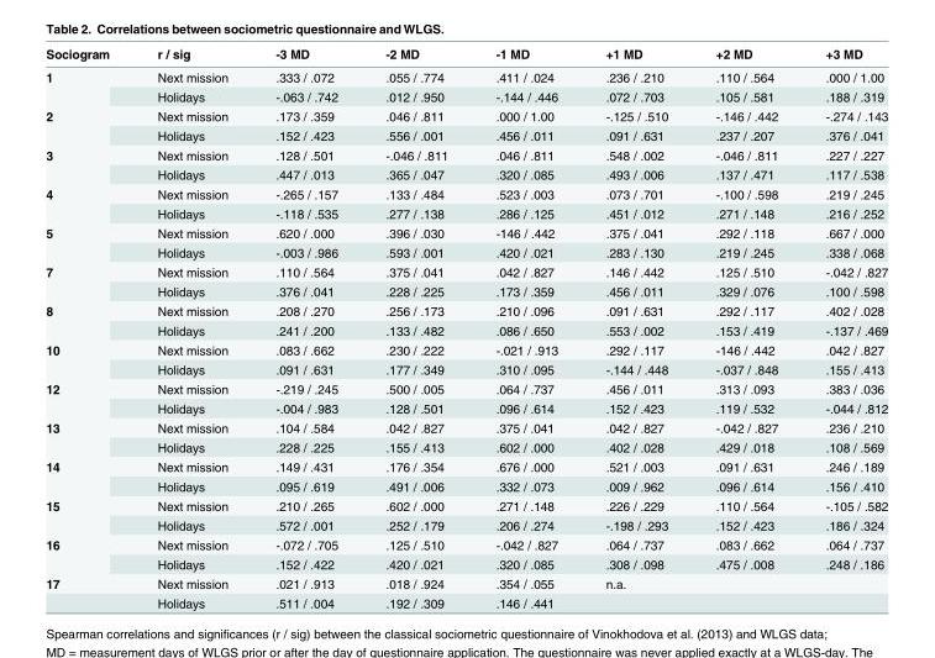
<table><thead><tr><td>Sociogram</td><td>r / sig</td><td>-3 MD</td><td>-2 MD</td><td>-1 MD</td><td>+1 MD</td><td>+2 MD</td><td>+3 MD</td></tr></thead><tbody><tr><td rowspan="2">1</td><td>Next mission</td><td>.333 / .072</td><td>.055 / .774</td><td>.411 / .024</td><td>.236 / .210</td><td>.110 / .564</td><td>.000 / 1.00</td></tr><tr><td>Holidays</td><td>-.063 / .742</td><td>.012 / .950</td><td>-.144 / .446</td><td>.072 / .703</td><td>.105 / .581</td><td>.188 / .319</td></tr><tr><td rowspan="2">2</td><td>Next mission</td><td>.173 / .359</td><td>.046 / .811</td><td>.000 / 1.00</td><td>-.125 / .510</td><td>-.146 / .442</td><td>-.274 / .143</td></tr><tr><td>Holidays</td><td>.152 / .423</td><td>.556 / .001</td><td>.456 / .011</td><td>.091 / .631</td><td>.237 / .207</td><td>.376 / .041</td></tr><tr><td rowspan="2">3</td><td>Next mission</td><td>.128 / .501</td><td>-.046 / .811</td><td>.046 / .811</td><td>.548 / .002</td><td>-.046 / .811</td><td>.227 / .227</td></tr><tr><td>Holidays</td><td>.447 / .013</td><td>.365 / .047</td><td>.320 / .085</td><td>.493 / .006</td><td>.137 / .471</td><td>.117 / .538</td></tr><tr><td rowspan="2">4</td><td>Next mission</td><td>-.265 / .157</td><td>.133 / .484</td><td>.523 / .003</td><td>.073 / .701</td><td>-.100 / .598</td><td>.219 / .245</td></tr><tr><td>Holidays</td><td>-.118 / .535</td><td>.277 / .138</td><td>.286 / .125</td><td>.451 / .012</td><td>.271 / .148</td><td>.216 / .252</td></tr><tr><td rowspan="2">5</td><td>Next mission</td><td>.620 / .000</td><td>.396 / .030</td><td>-146 / .442</td><td>.375 / .041</td><td>.292 / .118</td><td>.667 / .000</td></tr><tr><td>Holidays</td><td>-.003 / .986</td><td>.593 / .001</td><td>.420 / .021</td><td>.283 / .130</td><td>.219 / .245</td><td>.338 / .068</td></tr><tr><td rowspan="2">7</td><td>Next mission</td><td>.110 / .564</td><td>.375 / .041</td><td>.042 / .827</td><td>.146 / .442</td><td>.125 / .510</td><td>-.042 / .827</td></tr><tr><td>Holidays</td><td>.376 / .041</td><td>.228 / .225</td><td>.173 / .359</td><td>.456 / .011</td><td>.329 / .076</td><td>.100 / .598</td></tr><tr><td rowspan="2">8</td><td>Next mission</td><td>.208 / .270</td><td>.256 / .173</td><td>.210 / .096</td><td>.091 / .631</td><td>.292 / .117</td><td>.402 / .028</td></tr><tr><td>Holidays</td><td>.241 / .200</td><td>.133 / .482</td><td>.086 / .650</td><td>.553 / .002</td><td>.153 / .419</td><td>-.137 / .469</td></tr><tr><td rowspan="2">10</td><td>Next mission</td><td>.083 / .662</td><td>.230 / .222</td><td>-.021 / .913</td><td>.292 / .117</td><td>-146 / .442</td><td>.042 / .827</td></tr><tr><td>Holidays</td><td>.091 / .631</td><td>.177 / .349</td><td>.310 / .095</td><td>-.144 / .448</td><td>-.037 / .848</td><td>.155 / .413</td></tr><tr><td rowspan="2">12</td><td>Next mission</td><td>-.219 / .245</td><td>.500 / .005</td><td>.064 / .737</td><td>.456 / .011</td><td>.313 / .093</td><td>.383 / .036</td></tr><tr><td>Holidays</td><td>-.004 / .983</td><td>.128 / .501</td><td>.096 / .614</td><td>.152 / .423</td><td>.119 / .532</td><td>-.044 / .812</td></tr><tr><td rowspan="2">13</td><td>Next mission</td><td>.104 / .584</td><td>.042 / .827</td><td>.375 / .041</td><td>.042 / .827</td><td>-.042 / .827</td><td>.236 / .210</td></tr><tr><td>Holidays</td><td>.228 / .225</td><td>.155 / .413</td><td>.602 / .000</td><td>.402 / .028</td><td>.429 / .018</td><td>.108 / .569</td></tr><tr><td rowspan="2">14</td><td>Next mission</td><td>.149 / .431</td><td>.176 / .354</td><td>.676 / .000</td><td>.521 / .003</td><td>.091 / .631</td><td>.246 / .189</td></tr><tr><td>Holidays</td><td>.095 / .619</td><td>.491 / .006</td><td>.332 / .073</td><td>.009 / .962</td><td>.096 / .614</td><td>.156 / .410</td></tr><tr><td rowspan="2">15</td><td>Next mission</td><td>.210 / .265</td><td>.602 / .000</td><td>.271 / .148</td><td>.226 / .229</td><td>.110 / .564</td><td>-.105 / .582</td></tr><tr><td>Holidays</td><td>.572 / .001</td><td>.252 / .179</td><td>.206 / .274</td><td>-.198 / .293</td><td>.152 / .423</td><td>.186 / .324</td></tr><tr><td rowspan="2">16</td><td>Next mission</td><td>-.072 / .705</td><td>.125 / .510</td><td>-.042 / .827</td><td>.064 / .737</td><td>.083 / .662</td><td>.064 / .737</td></tr><tr><td>Holidays</td><td>.152 / .422</td><td>.420 / .021</td><td>.320 / .085</td><td>.308 / .098</td><td>.475 / .008</td><td>.248 / .186</td></tr><tr><td rowspan="2">17</td><td>Next mission</td><td>.021 / .913</td><td>.018 / .924</td><td>.354 / .055</td><td colspan="3">n.a.</td></tr><tr><td>Holidays</td><td>.511 / .004</td><td>.192 / .309</td><td>.146 / .441</td><td colspan="3"></td></tr></tbody></table>